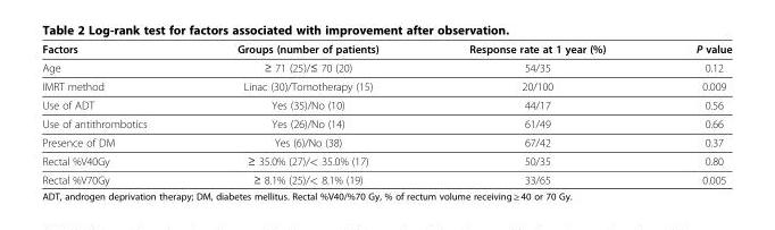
<table><thead><tr><td>Factors</td><td>Groups (number of patients)</td><td>Response rate at 1 year (%)</td><td>P value</td></tr></thead><tbody><tr><td>Age</td><td>≥ 71 (25)/≤ 70 (20)</td><td>54/35</td><td>0.12</td></tr><tr><td>IMRT method</td><td>Linac (30)/Tomotherapy (15)</td><td>20/100</td><td>0.009</td></tr><tr><td>Use of ADT</td><td>Yes (35)/No (10)</td><td>44/17</td><td>0.56</td></tr><tr><td>Use of antithrombotics</td><td>Yes (26)/No (14)</td><td>61/49</td><td>0.66</td></tr><tr><td>Presence of DM</td><td>Yes (6)/No (38)</td><td>67/42</td><td>0.37</td></tr><tr><td>Rectal %V40Gy</td><td>≥ 35.0% (27)/&lt; 35.0% (17)</td><td>50/35</td><td>0.80</td></tr><tr><td>Rectal %V70Gy</td><td>≥ 8.1% (25)/&lt; 8.1% (19)</td><td>33/65</td><td>0.005</td></tr></tbody></table>